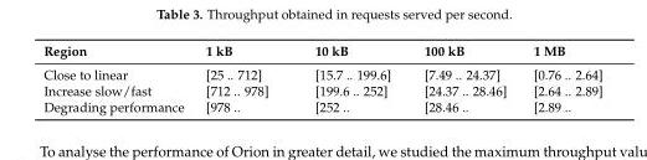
<table><thead><tr><td>Region</td><td>1 kB</td><td>10 kB</td><td>100 kB</td><td>1 MB</td></tr></thead><tbody><tr><td>Close to linear</td><td>[25 .. 712]</td><td>[15.7 .. 199.6]</td><td>[7.49 .. 24.37]</td><td>[0.76 .. 2.64]</td></tr><tr><td>Increase slow/fast</td><td>[712 .. 978]</td><td>[199.6 .. 252]</td><td>[24.37 .. 28.46]</td><td>[2.64 .. 2.89]</td></tr><tr><td>Degrading performance</td><td>[978 ..</td><td>[252 ..</td><td>[28.46 ..</td><td>[2.89 ..</td></tr></tbody></table>